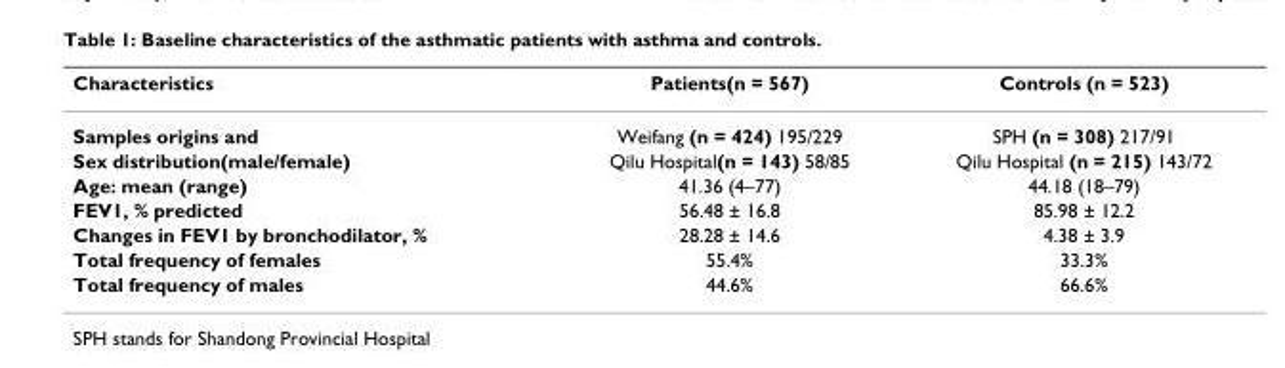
<table><thead><tr><td>Characteristics</td><td>Patients(n = 567)</td><td>Controls (n = 523)</td></tr></thead><tbody><tr><td>Samples origins and</td><td>Weifang (n = 424) 195/229</td><td>SPH (n = 308) 217/91</td></tr><tr><td>Sex distribution(male/female)</td><td>Qilu Hospital(n = 143) 58/85</td><td>Qilu Hospital (n = 215) 143/72</td></tr><tr><td>Age: mean (range)</td><td>41.36 (4–77)</td><td>44.18 (18–79)</td></tr><tr><td>FEV1, % predicted</td><td>56.48 ± 16.8</td><td>85.98 ± 12.2</td></tr><tr><td>Changes in FEV1 by bronchodilator, %</td><td>28.28 ± 14.6</td><td>4.38 ± 3.9</td></tr><tr><td>Total frequency of females</td><td>55.4%</td><td>33.3%</td></tr><tr><td>Total frequency of males</td><td>44.6%</td><td>66.6%</td></tr></tbody></table>